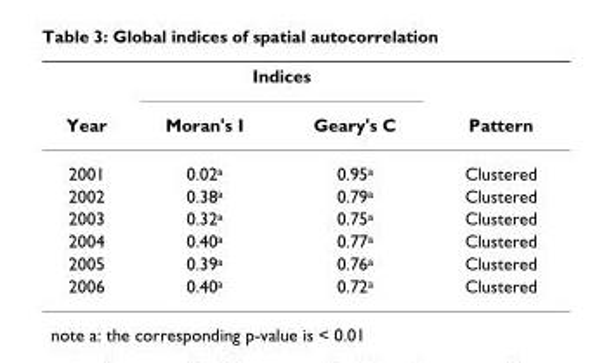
<table><thead><tr><td rowspan="2">Year</td><td colspan="2">Indices</td><td rowspan="2">Pattern</td></tr><tr><td>Moran&#x27;s I</td><td>Geary&#x27;s C</td></tr></thead><tbody><tr><td>2001</td><td>0.02<sup>a</sup></td><td>0.95<sup>a</sup></td><td>Clustered</td></tr><tr><td>2002</td><td>0.38<sup>a</sup></td><td>0.79<sup>a</sup></td><td>Clustered</td></tr><tr><td>2003</td><td>0.32<sup>a</sup></td><td>0.75<sup>a</sup></td><td>Clustered</td></tr><tr><td>2004</td><td>0.40<sup>a</sup></td><td>0.77<sup>a</sup></td><td>Clustered</td></tr><tr><td>2005</td><td>0.39<sup>a</sup></td><td>0.76<sup>a</sup></td><td>Clustered</td></tr><tr><td>2006</td><td>0.40<sup>a</sup></td><td>0.72<sup>a</sup></td><td>Clustered</td></tr></tbody></table>